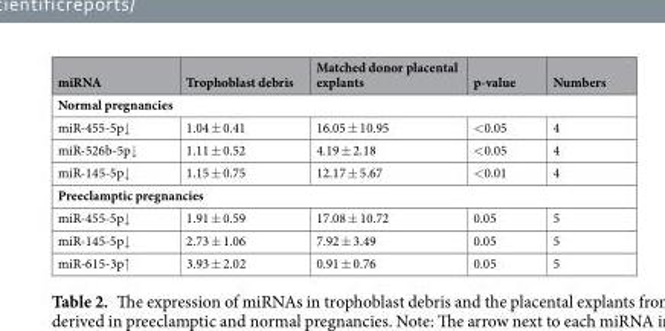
<table><thead><tr><td>miRNA</td><td>Trophoblast debris</td><td>Matched donor placental explants</td><td>p-value</td><td>Numbers</td></tr></thead><tbody><tr><td colspan="5">Normal pregnancies</td></tr><tr><td>miR-455-5p↓</td><td>1.04 ± 0.41</td><td>16.05 ± 10.95</td><td>&lt;0.05</td><td>4</td></tr><tr><td>miR-526b-5p↓</td><td>1.11 ± 0.52</td><td>4.19 ± 2.18</td><td>&lt;0.05</td><td>4</td></tr><tr><td>miR-145-5p↓</td><td>1.15 ± 0.75</td><td>12.17 ± 5.67</td><td>&lt;0.01</td><td>4</td></tr><tr><td colspan="5">Preeclamptic pregnancies</td></tr><tr><td>miR-455-5p↓</td><td>1.91 ± 0.59</td><td>17.08 ± 10.72</td><td>0.05</td><td>5</td></tr><tr><td>miR-145-5p↓</td><td>2.73 ± 1.06</td><td>7.92 ± 3.49</td><td>0.05</td><td>5</td></tr><tr><td>miR-615-3p↑</td><td>3.93 ± 2.02</td><td>0.91 ± 0.76</td><td>0.05</td><td>5</td></tr></tbody></table>